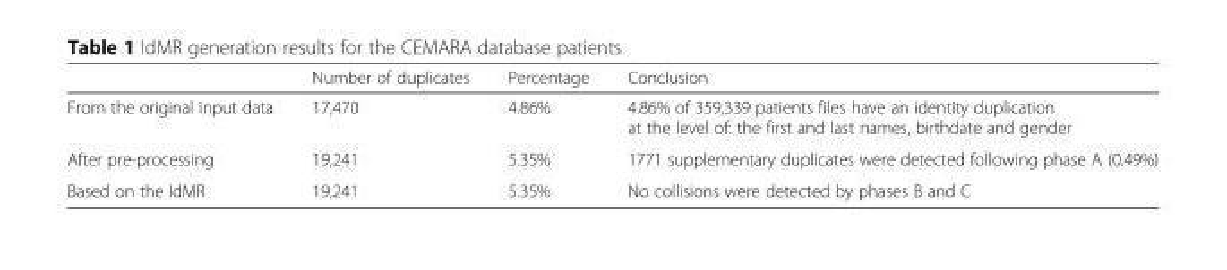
<table><thead><tr><td></td><td>Number of duplicates</td><td>Percentage</td><td>Conclusion</td></tr></thead><tbody><tr><td>From the original input data</td><td>17,470</td><td>4.86%</td><td>4.86% of 359,339 patients files have an identity duplication at the level of: the first and last names, birthdate and gender</td></tr><tr><td>After pre-processing</td><td>19,241</td><td>5.35%</td><td>1771 supplementary duplicates were detected following phase A (0.49%)</td></tr><tr><td>Based on the IdMR</td><td>19,241</td><td>5.35%</td><td>No collisions were detected by phases B and C</td></tr></tbody></table>